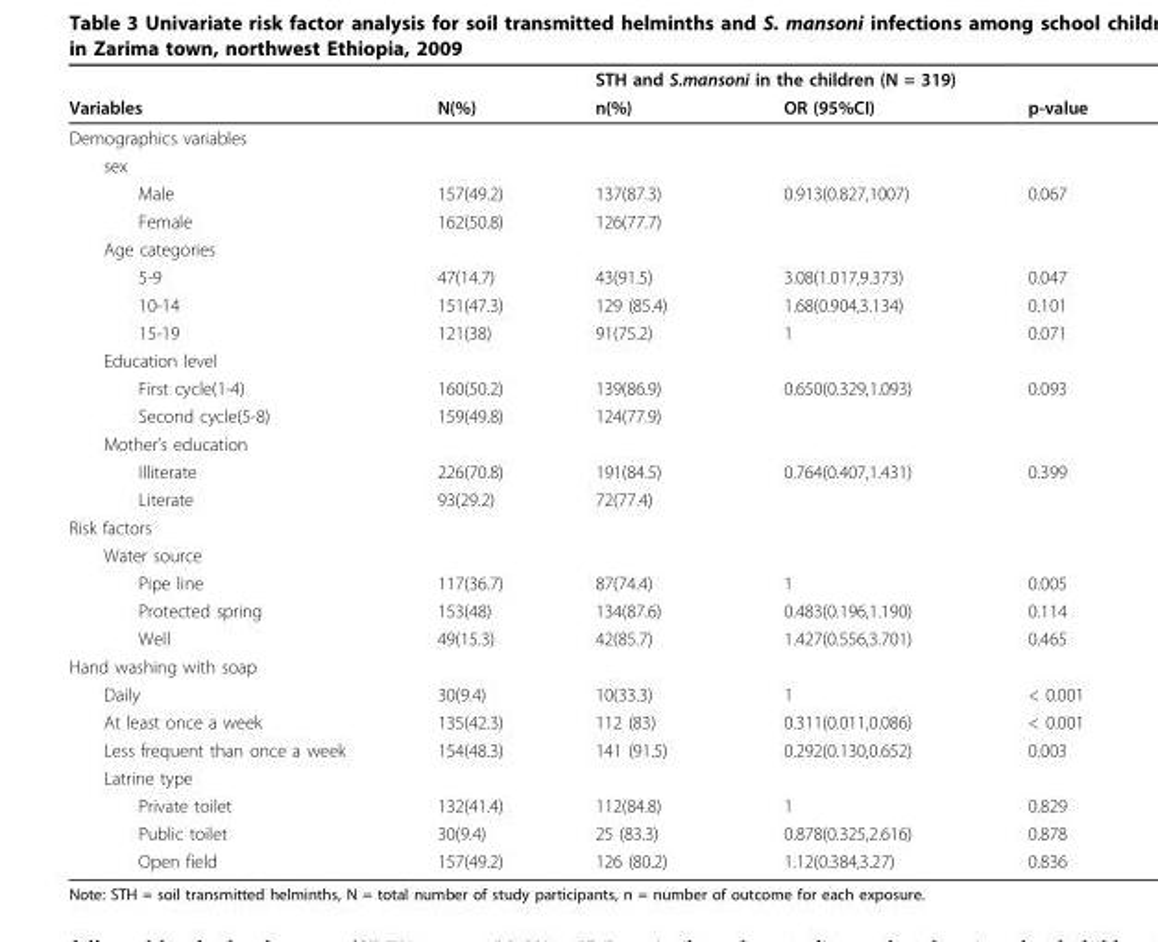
<table><thead><tr><td rowspan="2">Variables</td><td rowspan="2">N(%)</td><td colspan="3">STH and S.mansoni in the children (N = 319)</td></tr><tr><td>n(%)</td><td>OR (95%CI)</td><td>p-value</td></tr></thead><tbody><tr><td colspan="5">Demographics variables</td></tr><tr><td colspan="5">sex</td></tr><tr><td>Male</td><td>157(49.2)</td><td>137(87.3)</td><td>0.913(0.827,1007)</td><td>0.067</td></tr><tr><td>Female</td><td>162(50.8)</td><td>126(77.7)</td><td></td><td></td></tr><tr><td colspan="5">Age categories</td></tr><tr><td>5-9</td><td>47(14.7)</td><td>43(91.5)</td><td>3.08(1.017,9.373)</td><td>0.047</td></tr><tr><td>10-14</td><td>151(47.3)</td><td>129 (85.4)</td><td>1.68(0.904,3.134)</td><td>0.101</td></tr><tr><td>15-19</td><td>121(38)</td><td>91(75.2)</td><td>1</td><td>0.071</td></tr><tr><td colspan="5">Education level</td></tr><tr><td>First cycle(1-4)</td><td>160(50.2)</td><td>139(86.9)</td><td>0.650(0.329,1.093)</td><td>0.093</td></tr><tr><td>Second cycle(5-8)</td><td>159(49.8)</td><td>124(77.9)</td><td></td><td></td></tr><tr><td colspan="5">Mother’s education</td></tr><tr><td>Illiterate</td><td>226(70.8)</td><td>191(84.5)</td><td>0.764(0.407,1.431)</td><td>0.399</td></tr><tr><td>Literate</td><td>93(29.2)</td><td>72(77.4)</td><td></td><td></td></tr><tr><td colspan="5">Risk factors</td></tr><tr><td colspan="5">Water source</td></tr><tr><td>Pipe line</td><td>117(36.7)</td><td>87(74.4)</td><td>1</td><td>0.005</td></tr><tr><td>Protected spring</td><td>153(48)</td><td>134(87.6)</td><td>0.483(0.196,1.190)</td><td>0.114</td></tr><tr><td>Well</td><td>49(15.3)</td><td>42(85.7)</td><td>1.427(0.556,3.701)</td><td>0.465</td></tr><tr><td colspan="5">Hand washing with soap</td></tr><tr><td>Daily</td><td>30(9.4)</td><td>10(33.3)</td><td>1</td><td>&lt; 0.001</td></tr><tr><td>At least once a week</td><td>135(42.3)</td><td>112 (83)</td><td>0.311(0.011,0.086)</td><td>&lt; 0.001</td></tr><tr><td>Less frequent than once a week</td><td>154(48.3)</td><td>141 (91.5)</td><td>0.292(0.130,0.652)</td><td>0.003</td></tr><tr><td colspan="5">Latrine type</td></tr><tr><td>Private toilet</td><td>132(41.4)</td><td>112(84.8)</td><td>1</td><td>0.829</td></tr><tr><td>Public toilet</td><td>30(9.4)</td><td>25 (83.3)</td><td>0.878(0.325,2.616)</td><td>0.878</td></tr><tr><td>Open field</td><td>157(49.2)</td><td>126 (80.2)</td><td>1.12(0.384,3.27)</td><td>0.836</td></tr></tbody></table>